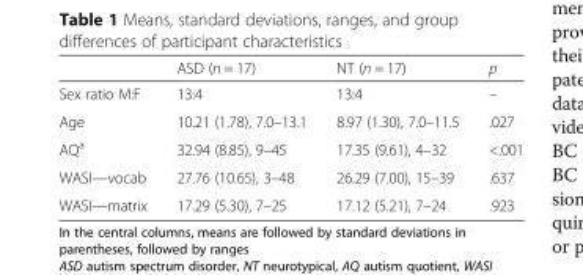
<table><thead><tr><td></td><td>ASD (n = 17)</td><td>NT (n = 17)</td><td>p</td></tr></thead><tbody><tr><td>Sex ratio M:F</td><td>13:4</td><td>13:4</td><td>–</td></tr><tr><td>Age</td><td>10.21 (1.78), 7.0–13.1</td><td>8.97 (1.30), 7.0–11.5</td><td>.027</td></tr><tr><td>AQ<sup>a</sup></td><td>32.94 (8.85), 9–45</td><td>17.35 (9.61), 4–32</td><td>&lt;.001</td></tr><tr><td>WASI—vocab</td><td>27.76 (10.65), 3–48</td><td>26.29 (7.00), 15–39</td><td>.637</td></tr><tr><td>WASI—matrix</td><td>17.29 (5.30), 7–25</td><td>17.12 (5.21), 7–24</td><td>.923</td></tr></tbody></table>